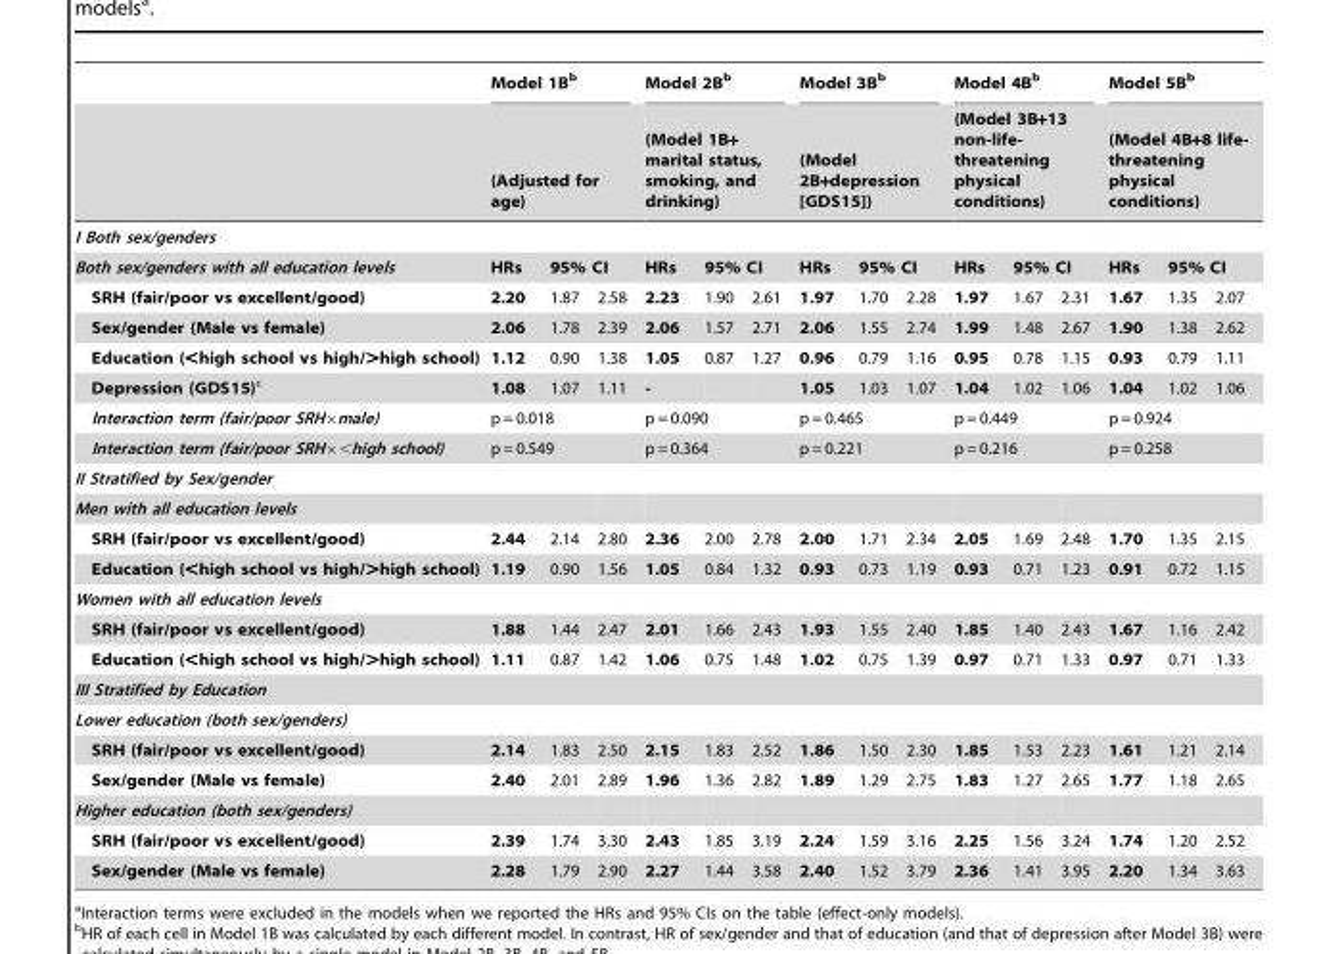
<table><thead><tr><td rowspan="2"></td><td rowspan="2" colspan="3">Model 1B<sup>b</sup> (Adjusted for age)</td><td rowspan="2" colspan="3">Model 2B<sup>b</sup> (Model 1B+ marital status, smoking, and drinking)</td><td rowspan="2" colspan="3">Model 3B<sup>b</sup> (Model 2B+depression [GDS15])</td><td rowspan="2" colspan="3">Model 4B<sup>b</sup> (Model 3B+13 non-life- threatening physical conditions)</td><td rowspan="2" colspan="3">Model 5B<sup>b</sup> (Model 4B+8 life- threatening physical conditions)</td></tr><tr></tr><tr><td colspan="16">I Both sex/genders</td></tr><tr><td rowspan="2">Both sex/genders with all education levels SRH (fair/poor vs excellent/good)</td><td rowspan="2">HRs 2.20</td><td colspan="2">95% CI</td><td rowspan="2">HRs 2.23</td><td colspan="2">95% CI</td><td rowspan="2">HRs 1.97</td><td colspan="2">95% CI</td><td rowspan="2">HRs 1.97</td><td colspan="2">95% CI</td><td rowspan="2">HRs 1.67</td><td colspan="2">95% CI</td></tr><tr><td>1.87</td><td>2.58</td><td>1.90</td><td>2.61</td><td>1.70</td><td>2.28</td><td>1.67</td><td>2.31</td><td>1.35</td><td>2.07</td></tr></thead><tbody><tr><td>Sex/gender (Male vs female)</td><td>2.06</td><td>1.78</td><td>2.39</td><td>2.06</td><td>1.57</td><td>2.71</td><td>2.06</td><td>1.55</td><td>2.74</td><td>1.99</td><td>1.48</td><td>2.67</td><td>1.90</td><td>1.38</td><td>2.62</td></tr><tr><td>Education (&lt;high school vs high/&gt;high school)</td><td>1.12</td><td>0.90</td><td>1.38</td><td>1.05</td><td>0.87</td><td>1.27</td><td>0.96</td><td>0.79</td><td>1.16</td><td>0.95</td><td>0.78</td><td>1.15</td><td>0.93</td><td>0.79</td><td>1.11</td></tr><tr><td>Depression (GDS15)c</td><td>1.08</td><td>1.07</td><td>1.11</td><td>-</td><td></td><td></td><td>1.05</td><td>1.03</td><td>1.07</td><td>1.04</td><td>1.02</td><td>1.06</td><td>1.04</td><td>1.02</td><td>1.06</td></tr><tr><td>Interaction term (fair/poor SRH×male)</td><td colspan="3">p = 0.018</td><td colspan="3">p = 0.090</td><td colspan="3">p = 0.465</td><td colspan="3">p = 0.449</td><td colspan="3">p = 0.924</td></tr><tr><td>Interaction term (fair/poor SRH×&lt;high school)</td><td colspan="3">p = 0.549</td><td colspan="3">p = 0.364</td><td colspan="3">p = 0.221</td><td colspan="3">p = 0.216</td><td colspan="3">p = 0.258</td></tr><tr><td colspan="16">II Stratified by Sex/gender</td></tr><tr><td colspan="16">Men with all education levels</td></tr><tr><td>SRH (fair/poor vs excellent/good)</td><td>2.44</td><td>2.14</td><td>2.80</td><td>2.36</td><td>2.00</td><td>2.78</td><td>2.00</td><td>1.71</td><td>2.34</td><td>2.05</td><td>1.69</td><td>2.48</td><td>1.70</td><td>1.35</td><td>2.15</td></tr><tr><td>Education (&lt;high school vs high/&gt;high school)</td><td>1.19</td><td>0.90</td><td>1.56</td><td>1.05</td><td>0.84</td><td>1.32</td><td>0.93</td><td>0.73</td><td>1.19</td><td>0.93</td><td>0.71</td><td>1.23</td><td>0.91</td><td>0.72</td><td>1.15</td></tr><tr><td colspan="16">Women with all education levels</td></tr><tr><td>SRH (fair/poor vs excellent/good)</td><td>1.88</td><td>1.44</td><td>2.47</td><td>2.01</td><td>1.66</td><td>2.43</td><td>1.93</td><td>1.55</td><td>2.40</td><td>1.85</td><td>1.40</td><td>2.43</td><td>1.67</td><td>1.16</td><td>2.42</td></tr><tr><td>Education (&lt;high school vs high/&gt;high school)</td><td>1.11</td><td>0.87</td><td>1.42</td><td>1.06</td><td>0.75</td><td>1.48</td><td>1.02</td><td>0.75</td><td>1.39</td><td>0.97</td><td>0.71</td><td>1.33</td><td>0.97</td><td>0.71</td><td>1.33</td></tr><tr><td colspan="16">III Stratified by Education</td></tr><tr><td colspan="16">Lower education (both sex/genders)</td></tr><tr><td>SRH (fair/poor vs excellent/good)</td><td>2.14</td><td>1.83</td><td>2.50</td><td>2.15</td><td>1.83</td><td>2.52</td><td>1.86</td><td>1.50</td><td>2.30</td><td>1.85</td><td>1.53</td><td>2.23</td><td>1.61</td><td>1.21</td><td>2.14</td></tr><tr><td>Sex/gender (Male vs female)</td><td>2.40</td><td>2.01</td><td>2.89</td><td>1.96</td><td>1.36</td><td>2.82</td><td>1.89</td><td>1.29</td><td>2.75</td><td>1.83</td><td>1.27</td><td>2.65</td><td>1.77</td><td>1.18</td><td>2.65</td></tr><tr><td colspan="16">Higher education (both sex/genders)</td></tr><tr><td>SRH (fair/poor vs excellent/good)</td><td>2.39</td><td>1.74</td><td>3.30</td><td>2.43</td><td>1.85</td><td>3.19</td><td>2.24</td><td>1.59</td><td>3.16</td><td>2.25</td><td>1.56</td><td>3.24</td><td>1.74</td><td>1.20</td><td>2.52</td></tr><tr><td>Sex/gender (Male vs female)</td><td>2.28</td><td>1.79</td><td>2.90</td><td>2.27</td><td>1.44</td><td>3.58</td><td>2.40</td><td>1.52</td><td>3.79</td><td>2.36</td><td>1.41</td><td>3.95</td><td>2.20</td><td>1.34</td><td>3.63</td></tr></tbody></table>